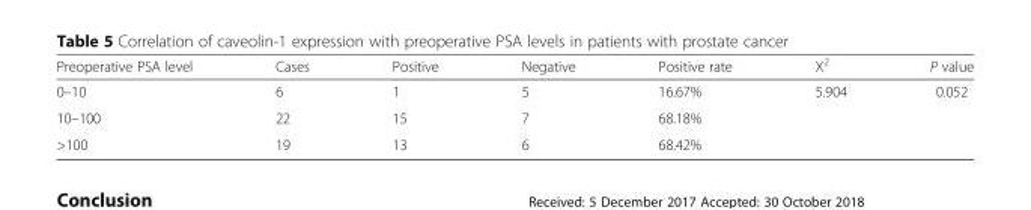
<table><thead><tr><td>Preoperative PSA level</td><td>Cases</td><td>Positive</td><td>Negative</td><td>Positive rate</td><td>X<sup>2</sup></td><td>P value</td></tr></thead><tbody><tr><td>0–10</td><td>6</td><td>1</td><td>5</td><td>16.67%</td><td rowspan="3">5.904</td><td rowspan="3">0.052</td></tr><tr><td>10–100</td><td>22</td><td>15</td><td>7</td><td>68.18%</td></tr><tr><td>&gt;100</td><td>19</td><td>13</td><td>6</td><td>68.42%</td></tr></tbody></table>